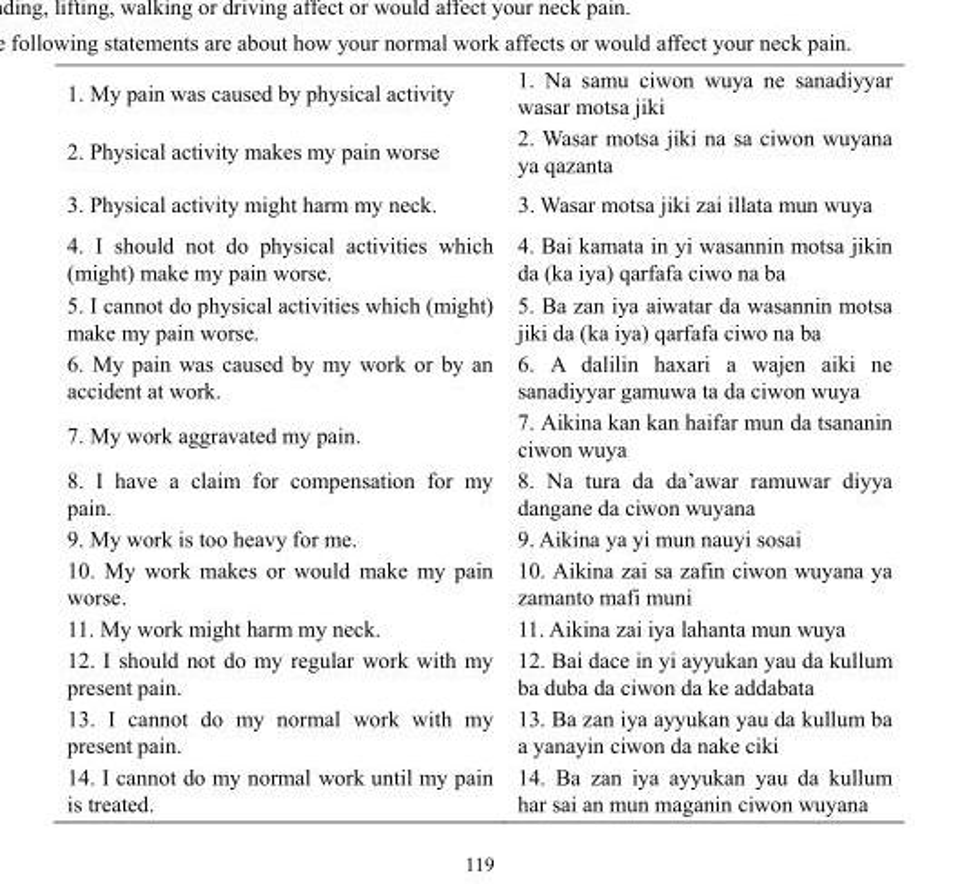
<table><tbody><tr><td>1. My pain was caused by physical activity</td><td>1. Na samu ciwon wuya ne sanadiyyar wasar motsa jiki</td></tr><tr><td>2. Physical activity makes my pain worse</td><td>2. Wasar motsa jiki na sa ciwon wuyana ya qazanta</td></tr><tr><td>3. Physical activity might harm my neck.</td><td>3. Wasar motsa jiki zai illata mun wuya</td></tr><tr><td>4. I should not do physical activities which (might) make my pain worse.</td><td>4. Bai kamata in yi wasannin motsa jikin da (ka iya) qarfafa ciwo na ba</td></tr><tr><td>5. I cannot do physical activities which (might) make my pain worse.</td><td>5. Ba zan iya aiwatar da wasannin motsa jiki da (ka iya) qarfafa ciwo na ba</td></tr><tr><td>6. My pain was caused by my work or by an accident at work.</td><td>6. A dalilin haxari a wajen aiki ne sanadiyyar gamuwa ta da ciwon wuya</td></tr><tr><td>7. My work aggravated my pain.</td><td>7. Aikina kan kan haifar mun da tsananin ciwon wuya</td></tr><tr><td>8. I have a claim for compensation for my pain.</td><td>8. Na tura da da’awar ramuwar diyya dangane da ciwon wuyana</td></tr><tr><td>9. My work is too heavy for me.</td><td>9. Aikina ya yi mun nauyi sosai</td></tr><tr><td>10. My work makes or would make my pain worse.</td><td>10. Aikina zai sa zafin ciwon wuyana ya zamanto mafi muni</td></tr><tr><td>11. My work might harm my neck.</td><td>11. Aikina zai iya lahanta mun wuya</td></tr><tr><td>12. I should not do my regular work with my present pain.</td><td>12. Bai dace in yi ayyukan yau da kullum ba duba da ciwon da ke addabata</td></tr><tr><td>13. I cannot do my normal work with my present pain.</td><td>13. Ba zan iya ayyukan yau da kullum ba a yanayin ciwon da nake ciki</td></tr><tr><td>14. I cannot do my normal work until my pain is treated.</td><td>14. Ba zan iya ayyukan yau da kullum har sai an mun maganin ciwon wuyana</td></tr></tbody></table>